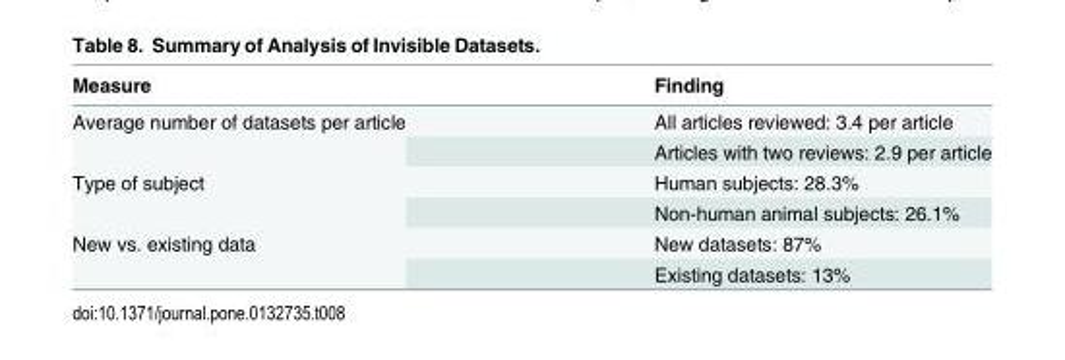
<table><thead><tr><td>Measure</td><td>Finding</td></tr></thead><tbody><tr><td rowspan="2">Average number of datasets per article</td><td>All articles reviewed: 3.4 per article</td></tr><tr><td>Articles with two reviews: 2.9 per article</td></tr><tr><td rowspan="2">Type of subject</td><td>Human subjects: 28.3%</td></tr><tr><td>Non-human animal subjects: 26.1%</td></tr><tr><td rowspan="2">New vs. existing data</td><td>New datasets: 87%</td></tr><tr><td>Existing datasets: 13%</td></tr></tbody></table>